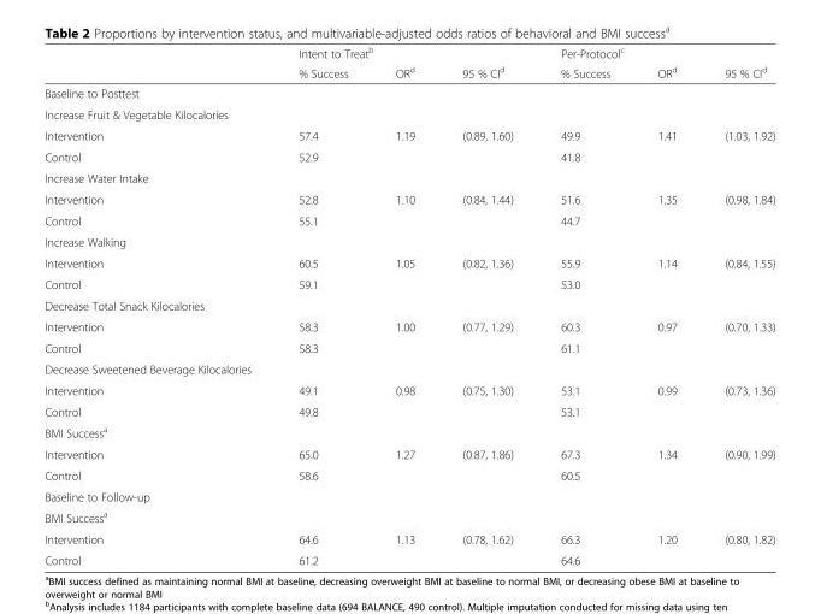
<table><thead><tr><td rowspan="2"></td><td colspan="3">Intent to Treat<sup>b</sup></td><td colspan="3">Per-Protocol<sup>c</sup></td></tr><tr><td>% Success</td><td>OR<sup>d</sup></td><td>95 % CI<sup>d</sup></td><td>% Success</td><td>OR<sup>d</sup></td><td>95 % CI<sup>d</sup></td></tr></thead><tbody><tr><td colspan="7">Baseline to Posttest</td></tr><tr><td colspan="7">Increase Fruit &amp; Vegetable Kilocalories</td></tr><tr><td>Intervention</td><td>57.4</td><td>1.19</td><td>(0.89, 1.60)</td><td>49.9</td><td>1.41</td><td>(1.03, 1.92)</td></tr><tr><td>Control</td><td>52.9</td><td></td><td></td><td>41.8</td><td></td><td></td></tr><tr><td colspan="7">Increase Water Intake</td></tr><tr><td>Intervention</td><td>52.8</td><td>1.10</td><td>(0.84, 1.44)</td><td>51.6</td><td>1.35</td><td>(0.98, 1.84)</td></tr><tr><td>Control</td><td>55.1</td><td></td><td></td><td>44.7</td><td></td><td></td></tr><tr><td colspan="7">Increase Walking</td></tr><tr><td>Intervention</td><td>60.5</td><td>1.05</td><td>(0.82, 1.36)</td><td>55.9</td><td>1.14</td><td>(0.84, 1.55)</td></tr><tr><td>Control</td><td>59.1</td><td></td><td></td><td>53.0</td><td></td><td></td></tr><tr><td colspan="7">Decrease Total Snack Kilocalories</td></tr><tr><td>Intervention</td><td>58.3</td><td>1.00</td><td>(0.77, 1.29)</td><td>60.3</td><td>0.97</td><td>(0.70, 1.33)</td></tr><tr><td>Control</td><td>58.3</td><td></td><td></td><td>61.1</td><td></td><td></td></tr><tr><td colspan="7">Decrease Sweetened Beverage Kilocalories</td></tr><tr><td>Intervention</td><td>49.1</td><td>0.98</td><td>(0.75, 1.30)</td><td>53.1</td><td>0.99</td><td>(0.73, 1.36)</td></tr><tr><td>Control</td><td>49.8</td><td></td><td></td><td>53.1</td><td></td><td></td></tr><tr><td colspan="7">BMI Success<sup>a</sup></td></tr><tr><td>Intervention</td><td>65.0</td><td>1.27</td><td>(0.87, 1.86)</td><td>67.3</td><td>1.34</td><td>(0.90, 1.99)</td></tr><tr><td>Control</td><td>58.6</td><td></td><td></td><td>60.5</td><td></td><td></td></tr><tr><td colspan="7">Baseline to Follow-up</td></tr><tr><td colspan="7">BMI Success<sup>a</sup></td></tr><tr><td>Intervention</td><td>64.6</td><td>1.13</td><td>(0.78, 1.62)</td><td>66.3</td><td>1.20</td><td>(0.80, 1.82)</td></tr><tr><td>Control</td><td>61.2</td><td></td><td></td><td>64.6</td><td></td><td></td></tr></tbody></table>